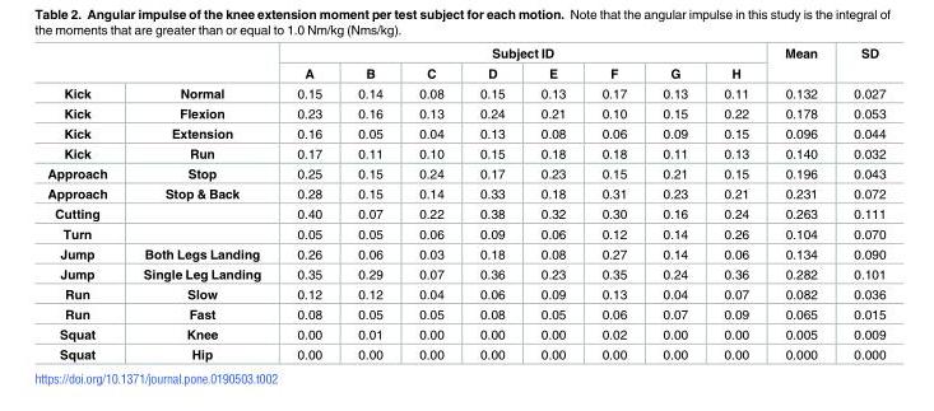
<table><thead><tr><td rowspan="2"></td><td rowspan="2"></td><td colspan="8">Subject ID</td><td rowspan="2">Mean</td><td rowspan="2">SD</td></tr><tr><td>A</td><td>B</td><td>C</td><td>D</td><td>E</td><td>F</td><td>G</td><td>H</td></tr></thead><tbody><tr><td>Kick</td><td>Normal</td><td>0.15</td><td>0.14</td><td>0.08</td><td>0.15</td><td>0.13</td><td>0.17</td><td>0.13</td><td>0.11</td><td>0.132</td><td>0.027</td></tr><tr><td>Kick</td><td>Flexion</td><td>0.23</td><td>0.16</td><td>0.13</td><td>0.24</td><td>0.21</td><td>0.10</td><td>0.15</td><td>0.22</td><td>0.178</td><td>0.053</td></tr><tr><td>Kick</td><td>Extension</td><td>0.16</td><td>0.05</td><td>0.04</td><td>0.13</td><td>0.08</td><td>0.06</td><td>0.09</td><td>0.15</td><td>0.096</td><td>0.044</td></tr><tr><td>Kick</td><td>Run</td><td>0.17</td><td>0.11</td><td>0.10</td><td>0.15</td><td>0.18</td><td>0.18</td><td>0.11</td><td>0.13</td><td>0.140</td><td>0.032</td></tr><tr><td>Approach</td><td>Stop</td><td>0.25</td><td>0.15</td><td>0.24</td><td>0.17</td><td>0.23</td><td>0.15</td><td>0.21</td><td>0.15</td><td>0.196</td><td>0.043</td></tr><tr><td>Approach</td><td>Stop &amp; Back</td><td>0.28</td><td>0.15</td><td>0.14</td><td>0.33</td><td>0.18</td><td>0.31</td><td>0.23</td><td>0.21</td><td>0.231</td><td>0.072</td></tr><tr><td>Cutting</td><td></td><td>0.40</td><td>0.07</td><td>0.22</td><td>0.38</td><td>0.32</td><td>0.30</td><td>0.16</td><td>0.24</td><td>0.263</td><td>0.111</td></tr><tr><td>Turn</td><td></td><td>0.05</td><td>0.05</td><td>0.06</td><td>0.09</td><td>0.06</td><td>0.12</td><td>0.14</td><td>0.26</td><td>0.104</td><td>0.070</td></tr><tr><td>Jump</td><td>Both Legs Landing</td><td>0.26</td><td>0.06</td><td>0.03</td><td>0.18</td><td>0.08</td><td>0.27</td><td>0.14</td><td>0.06</td><td>0.134</td><td>0.090</td></tr><tr><td>Jump</td><td>Single Leg Landing</td><td>0.35</td><td>0.29</td><td>0.07</td><td>0.36</td><td>0.23</td><td>0.35</td><td>0.24</td><td>0.36</td><td>0.282</td><td>0.101</td></tr><tr><td>Run</td><td>Slow</td><td>0.12</td><td>0.12</td><td>0.04</td><td>0.06</td><td>0.09</td><td>0.13</td><td>0.04</td><td>0.07</td><td>0.082</td><td>0.036</td></tr><tr><td>Run</td><td>Fast</td><td>0.08</td><td>0.05</td><td>0.05</td><td>0.08</td><td>0.05</td><td>0.06</td><td>0.07</td><td>0.09</td><td>0.065</td><td>0.015</td></tr><tr><td>Squat</td><td>Knee</td><td>0.00</td><td>0.01</td><td>0.00</td><td>0.00</td><td>0.00</td><td>0.02</td><td>0.00</td><td>0.00</td><td>0.005</td><td>0.009</td></tr><tr><td>Squat</td><td>Hip</td><td>0.00</td><td>0.00</td><td>0.00</td><td>0.00</td><td>0.00</td><td>0.00</td><td>0.00</td><td>0.00</td><td>0.000</td><td>0.000</td></tr></tbody></table>